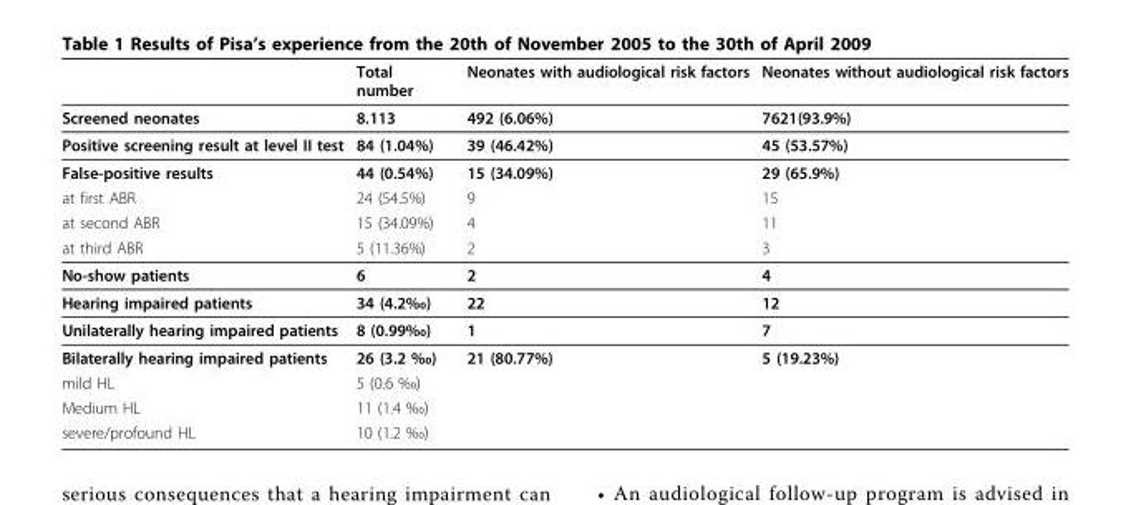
<table><thead><tr><td></td><td>Total number</td><td>Neonates with audiological risk factors</td><td>Neonates without audiological risk factors</td></tr></thead><tbody><tr><td>Screened neonates</td><td>8.113</td><td>492 (6.06%)</td><td>7621(93.9%)</td></tr><tr><td>Positive screening result at level II test</td><td>84 (1.04%)</td><td>39 (46.42%)</td><td>45 (53.57%)</td></tr><tr><td>False-positive results</td><td>44 (0.54%)</td><td>15 (34.09%)</td><td>29 (65.9%)</td></tr><tr><td>at first ABR</td><td>24 (54.5%)</td><td>9</td><td>15</td></tr><tr><td>at second ABR</td><td>15 (34.09%)</td><td>4</td><td>11</td></tr><tr><td>at third ABR</td><td>5 (11.36%)</td><td>2</td><td>3</td></tr><tr><td>No-show patients</td><td>6</td><td>2</td><td>4</td></tr><tr><td>Hearing impaired patients</td><td>34 (4.2‰)</td><td>22</td><td>12</td></tr><tr><td>Unilaterally hearing impaired patients</td><td>8 (0.99‰)</td><td>1</td><td>7</td></tr><tr><td>Bilaterally hearing impaired patients</td><td>26 (3.2 ‰)</td><td>21 (80.77%)</td><td>5 (19.23%)</td></tr><tr><td>mild HL</td><td>5 (0.6 ‰)</td><td></td><td></td></tr><tr><td>Medium HL</td><td>11 (1.4 ‰)</td><td></td><td></td></tr><tr><td>severe/profound HL</td><td>10 (1.2 ‰)</td><td></td><td></td></tr></tbody></table>